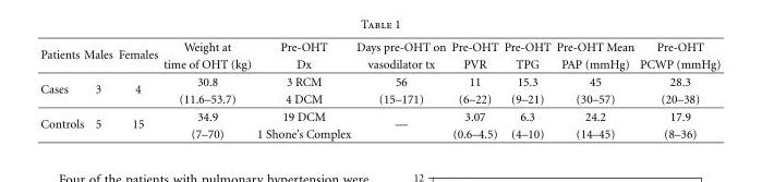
<table><thead><tr><td rowspan="2">Patients</td><td rowspan="2">Males</td><td rowspan="2">Females</td><td rowspan="2">Weight at time of OHT (kg)</td><td rowspan="2">Pre-OHT Dx</td><td rowspan="2">Days pre-OHT on vasodilator tx</td><td rowspan="2">Pre-OHT PVR</td><td rowspan="2">Pre-OHT TPG</td><td rowspan="2">Pre-OHT Mean PAP (mmHg)</td><td rowspan="2">Pre-OHT PCWP (mmHg)</td></tr><tr></tr></thead><tbody><tr><td rowspan="2">Cases</td><td rowspan="2">3</td><td rowspan="2">4</td><td>30.8</td><td>3 RCM</td><td>56</td><td>11</td><td>15.3</td><td>45</td><td>28.3</td></tr><tr><td>(11.6–53.7)</td><td>4 DCM</td><td>(15–171)</td><td>(6–22)</td><td>(9–21)</td><td>(30–57)</td><td>(20–38)</td></tr><tr><td rowspan="2">Controls</td><td rowspan="2">5</td><td rowspan="2">15</td><td>34.9</td><td>19 DCM</td><td rowspan="2">—</td><td>3.07</td><td>6.3</td><td>24.2</td><td>17.9</td></tr><tr><td>(7–70)</td><td>1 Shone’s Complex</td><td>(0.6–4.5)</td><td>(4–10)</td><td>(14–45)</td><td>(8–36)</td></tr></tbody></table>